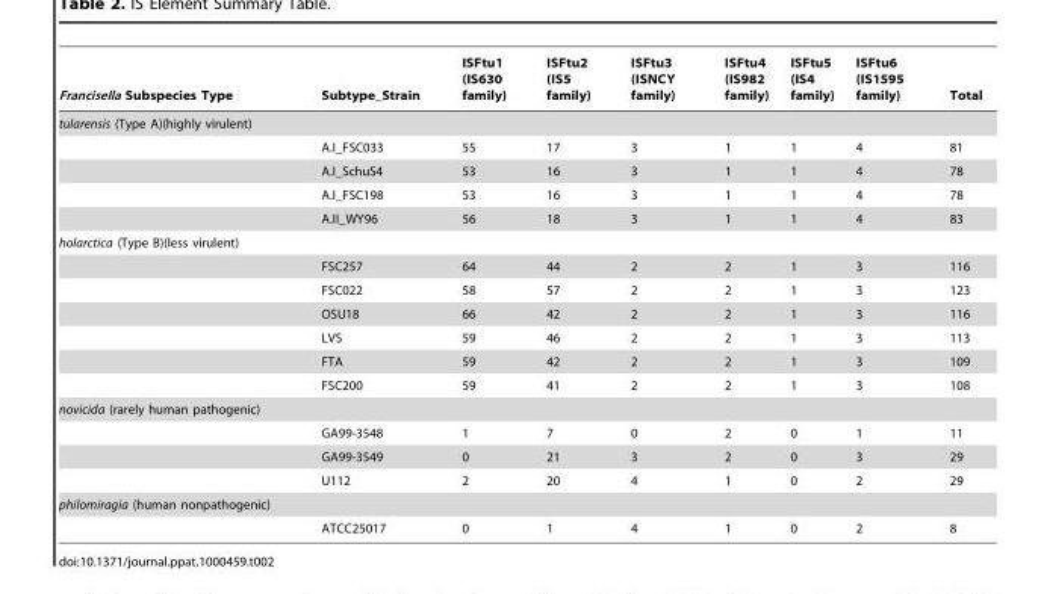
<table><thead><tr><td>Francisella Subspecies Type</td><td>Subtype_Strain</td><td>ISFtu1 (IS630 family)</td><td>ISFtu2 (IS5 family)</td><td>ISFtu3 (ISNCY family)</td><td>ISFtu4 (IS982 family)</td><td>ISFtu5 (IS4 family)</td><td>ISFtu6 (IS1595 family)</td><td>Total</td></tr></thead><tbody><tr><td colspan="9">tularensis (Type A)(highly virulent)</td></tr><tr><td></td><td>A.I_FSC033</td><td>55</td><td>17</td><td>3</td><td>1</td><td>1</td><td>4</td><td>81</td></tr><tr><td></td><td>A.I_SchuS4</td><td>53</td><td>16</td><td>3</td><td>1</td><td>1</td><td>4</td><td>78</td></tr><tr><td></td><td>A.I_FSC198</td><td>53</td><td>16</td><td>3</td><td>1</td><td>1</td><td>4</td><td>78</td></tr><tr><td></td><td>A.II_WY96</td><td>56</td><td>18</td><td>3</td><td>1</td><td>1</td><td>4</td><td>83</td></tr><tr><td colspan="9">holarctica (Type B)(less virulent)</td></tr><tr><td></td><td>FSC257</td><td>64</td><td>44</td><td>2</td><td>2</td><td>1</td><td>3</td><td>116</td></tr><tr><td></td><td>FSC022</td><td>58</td><td>57</td><td>2</td><td>2</td><td>1</td><td>3</td><td>123</td></tr><tr><td></td><td>OSU18</td><td>66</td><td>42</td><td>2</td><td>2</td><td>1</td><td>3</td><td>116</td></tr><tr><td></td><td>LVS</td><td>59</td><td>46</td><td>2</td><td>2</td><td>1</td><td>3</td><td>113</td></tr><tr><td></td><td>FTA</td><td>59</td><td>42</td><td>2</td><td>2</td><td>1</td><td>3</td><td>109</td></tr><tr><td></td><td>FSC200</td><td>59</td><td>41</td><td>2</td><td>2</td><td>1</td><td>3</td><td>108</td></tr><tr><td colspan="9">novicida (rarely human pathogenic)</td></tr><tr><td></td><td>GA99-3548</td><td>1</td><td>7</td><td>0</td><td>2</td><td>0</td><td>1</td><td>11</td></tr><tr><td></td><td>GA99-3549</td><td>0</td><td>21</td><td>3</td><td>2</td><td>0</td><td>3</td><td>29</td></tr><tr><td></td><td>U112</td><td>2</td><td>20</td><td>4</td><td>1</td><td>0</td><td>2</td><td>29</td></tr><tr><td colspan="9">philomiragia (human nonpathogenic)</td></tr><tr><td></td><td>ATCC25017</td><td>0</td><td>1</td><td>4</td><td>1</td><td>0</td><td>2</td><td>8</td></tr></tbody></table>